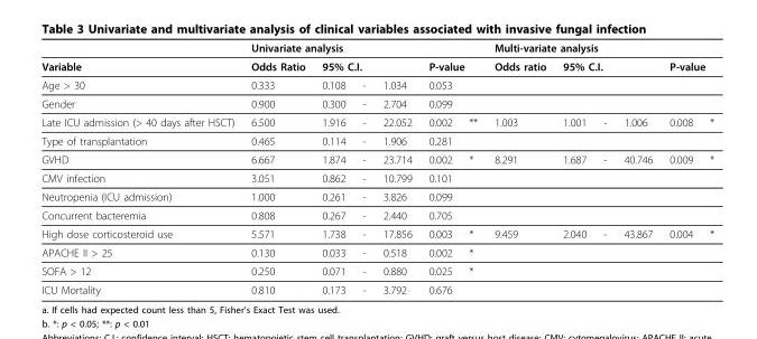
<table><thead><tr><td rowspan="3">Variable Age &gt; 30</td><td colspan="6">Univariate analysis</td><td colspan="6">Multi-variate analysis</td></tr><tr><td rowspan="2">Odds Ratio 0.333</td><td colspan="3">95% C.I.</td><td colspan="2">P-value</td><td rowspan="2">Odds ratio</td><td colspan="3">95% C.I.</td><td colspan="2">P-value</td></tr><tr><td>0.108</td><td>-</td><td>1.034</td><td>0.053</td><td></td><td></td><td></td><td></td><td></td><td></td></tr></thead><tbody><tr><td>Gender</td><td>0.900</td><td>0.300</td><td>-</td><td>2.704</td><td>0.099</td><td></td><td></td><td></td><td></td><td></td><td></td><td></td></tr><tr><td>Late ICU admission (&gt; 40 days after HSCT)</td><td>6.500</td><td>1.916</td><td>-</td><td>22.052</td><td>0.002</td><td>**</td><td>1.003</td><td>1.001</td><td>-</td><td>1.006</td><td>0.008</td><td>*</td></tr><tr><td>Type of transplantation</td><td>0.465</td><td>0.114</td><td>-</td><td>1.906</td><td>0.281</td><td></td><td></td><td></td><td></td><td></td><td></td><td></td></tr><tr><td>GVHD</td><td>6.667</td><td>1.874</td><td>-</td><td>23.714</td><td>0.002</td><td>*</td><td>8.291</td><td>1.687</td><td>-</td><td>40.746</td><td>0.009</td><td>*</td></tr><tr><td>CMV infection</td><td>3.051</td><td>0.862</td><td>-</td><td>10.799</td><td>0.101</td><td></td><td></td><td></td><td></td><td></td><td></td><td></td></tr><tr><td>Neutropenia (ICU admission)</td><td>1.000</td><td>0.261</td><td>-</td><td>3.826</td><td>0.099</td><td></td><td></td><td></td><td></td><td></td><td></td><td></td></tr><tr><td>Concurrent bacteremia</td><td>0.808</td><td>0.267</td><td>-</td><td>2.440</td><td>0.705</td><td></td><td></td><td></td><td></td><td></td><td></td><td></td></tr><tr><td>High dose corticosteroid use</td><td>5.571</td><td>1.738</td><td>-</td><td>17.856</td><td>0.003</td><td>*</td><td>9.459</td><td>2.040</td><td>-</td><td>43.867</td><td>0.004</td><td>*</td></tr><tr><td>APACHE II &gt; 25</td><td>0.130</td><td>0.033</td><td>-</td><td>0.518</td><td>0.002</td><td>*</td><td></td><td></td><td></td><td></td><td></td><td></td></tr><tr><td>SOFA &gt; 12</td><td>0.250</td><td>0.071</td><td>-</td><td>0.880</td><td>0.025</td><td>*</td><td></td><td></td><td></td><td></td><td></td><td></td></tr><tr><td>ICU Mortality</td><td>0.810</td><td>0.173</td><td>-</td><td>3.792</td><td>0.676</td><td></td><td></td><td></td><td></td><td></td><td></td><td></td></tr></tbody></table>